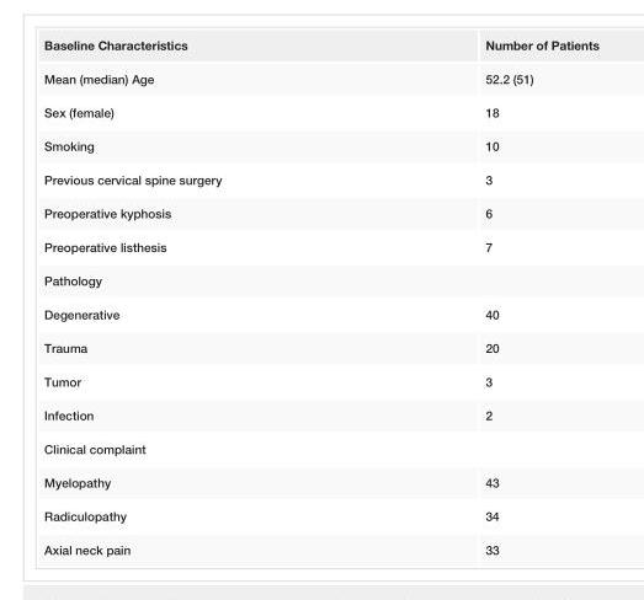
<table><tbody><tr><td>Baseline Characteristics</td><td>Number of Patients</td></tr><tr><td>Mean (median) Age</td><td>52.2 (51)</td></tr><tr><td>Sex (female)</td><td>18</td></tr><tr><td>Smoking</td><td>10</td></tr><tr><td>Previous cervical spine surgery</td><td>3</td></tr><tr><td>Preoperative kyphosis</td><td>6</td></tr><tr><td>Preoperative listhesis</td><td>7</td></tr><tr><td colspan="2">Pathology</td></tr><tr><td>Degenerative</td><td>40</td></tr><tr><td>Trauma</td><td>20</td></tr><tr><td>Tumor</td><td>3</td></tr><tr><td>Infection</td><td>2</td></tr><tr><td colspan="2">Clinical complaint</td></tr><tr><td>Myelopathy</td><td>43</td></tr><tr><td>Radiculopathy</td><td>34</td></tr><tr><td>Axial neck pain</td><td>33</td></tr></tbody></table>